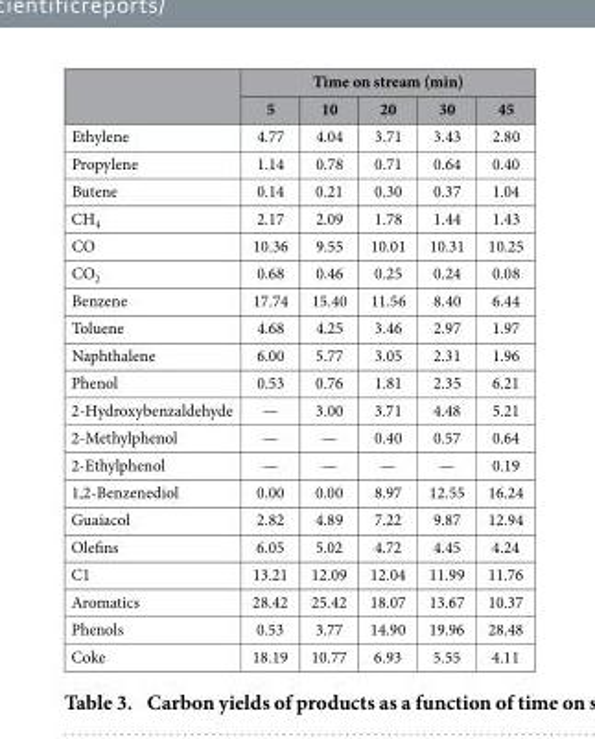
<table><thead><tr><td rowspan="2"></td><td colspan="5">Time on stream (min)</td></tr><tr><td>5</td><td>10</td><td>20</td><td>30</td><td>45</td></tr></thead><tbody><tr><td>Ethylene</td><td>4.77</td><td>4.04</td><td>3.71</td><td>3.43</td><td>2.80</td></tr><tr><td>Propylene</td><td>1.14</td><td>0.78</td><td>0.71</td><td>0.64</td><td>0.40</td></tr><tr><td>Butene</td><td>0.14</td><td>0.21</td><td>0.30</td><td>0.37</td><td>1.04</td></tr><tr><td>CH<sub>4</sub></td><td>2.17</td><td>2.09</td><td>1.78</td><td>1.44</td><td>1.43</td></tr><tr><td>CO</td><td>10.36</td><td>9.55</td><td>10.01</td><td>10.31</td><td>10.25</td></tr><tr><td>CO<sub>2</sub></td><td>0.68</td><td>0.46</td><td>0.25</td><td>0.24</td><td>0.08</td></tr><tr><td>Benzene</td><td>17.74</td><td>15.40</td><td>11.56</td><td>8.40</td><td>6.44</td></tr><tr><td>Toluene</td><td>4.68</td><td>4.25</td><td>3.46</td><td>2.97</td><td>1.97</td></tr><tr><td>Naphthalene</td><td>6.00</td><td>5.77</td><td>3.05</td><td>2.31</td><td>1.96</td></tr><tr><td>Phenol</td><td>0.53</td><td>0.76</td><td>1.81</td><td>2.35</td><td>6.21</td></tr><tr><td>2-Hydroxybenzaldehyde</td><td>—</td><td>3.00</td><td>3.71</td><td>4.48</td><td>5.21</td></tr><tr><td>2-Methylphenol</td><td>—</td><td>—</td><td>0.40</td><td>0.57</td><td>0.64</td></tr><tr><td>2-Ethylphenol</td><td>—</td><td>—</td><td>—</td><td>—</td><td>0.19</td></tr><tr><td>1,2-Benzenediol</td><td>0.00</td><td>0.00</td><td>8.97</td><td>12.55</td><td>16.24</td></tr><tr><td>Guaiacol</td><td>2.82</td><td>4.89</td><td>7.22</td><td>9.87</td><td>12.94</td></tr><tr><td>Olefins</td><td>6.05</td><td>5.02</td><td>4.72</td><td>4.45</td><td>4.24</td></tr><tr><td>C1</td><td>13.21</td><td>12.09</td><td>12.04</td><td>11.99</td><td>11.76</td></tr><tr><td>Aromatics</td><td>28.42</td><td>25.42</td><td>18.07</td><td>13.67</td><td>10.37</td></tr><tr><td>Phenols</td><td>0.53</td><td>3.77</td><td>14.90</td><td>19.96</td><td>28.48</td></tr><tr><td>Coke</td><td>18.19</td><td>10.77</td><td>6.93</td><td>5.55</td><td>4.11</td></tr></tbody></table>